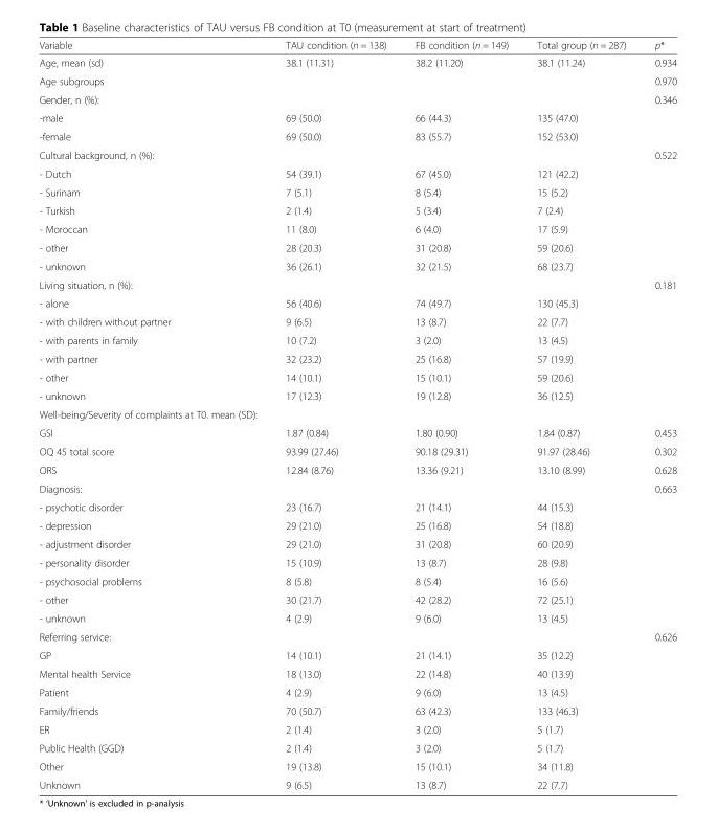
<table><thead><tr><td>Variable</td><td>TAU condition (n = 138)</td><td>FB condition (n = 149)</td><td>Total group (n = 287)</td><td>p*</td></tr></thead><tbody><tr><td>Age, mean (sd)</td><td>38.1 (11.31)</td><td>38.2 (11.20)</td><td>38.1 (11.24)</td><td>0.934</td></tr><tr><td>Age subgroups</td><td></td><td></td><td></td><td>0.970</td></tr><tr><td colspan="4">Gender, n (%):</td><td rowspan="3">0.346</td></tr><tr><td>-male</td><td>69 (50.0)</td><td>66 (44.3)</td><td>135 (47.0)</td></tr><tr><td>-female</td><td>69 (50.0)</td><td>83 (55.7)</td><td>152 (53.0)</td></tr><tr><td colspan="4">Cultural background, n (%):</td><td rowspan="7">0.522</td></tr><tr><td>- Dutch</td><td>54 (39.1)</td><td>67 (45.0)</td><td>121 (42.2)</td></tr><tr><td>- Surinam</td><td>7 (5.1)</td><td>8 (5.4)</td><td>15 (5.2)</td></tr><tr><td>- Turkish</td><td>2 (1.4)</td><td>5 (3.4)</td><td>7 (2.4)</td></tr><tr><td>- Moroccan</td><td>11 (8.0)</td><td>6 (4.0)</td><td>17 (5.9)</td></tr><tr><td>- other</td><td>28 (20.3)</td><td>31 (20.8)</td><td>59 (20.6)</td></tr><tr><td>- unknown</td><td>36 (26.1)</td><td>32 (21.5)</td><td>68 (23.7)</td></tr><tr><td colspan="4">Living situation, n (%):</td><td rowspan="7">0.181</td></tr><tr><td>- alone</td><td>56 (40.6)</td><td>74 (49.7)</td><td>130 (45.3)</td></tr><tr><td>- with children without partner</td><td>9 (6.5)</td><td>13 (8.7)</td><td>22 (7.7)</td></tr><tr><td>- with parents in family</td><td>10 (7.2)</td><td>3 (2.0)</td><td>13 (4.5)</td></tr><tr><td>- with partner</td><td>32 (23.2)</td><td>25 (16.8)</td><td>57 (19.9)</td></tr><tr><td>- other</td><td>14 (10.1)</td><td>15 (10.1)</td><td>59 (20.6)</td></tr><tr><td>- unknown</td><td>17 (12.3)</td><td>19 (12.8)</td><td>36 (12.5)</td></tr><tr><td colspan="5">Well-being/Severity of complaints at T0. mean (SD):</td></tr><tr><td>GSI</td><td>1.87 (0.84)</td><td>1.80 (0.90)</td><td>1.84 (0.87)</td><td>0.453</td></tr><tr><td>OQ 45 total score</td><td>93.99 (27.46)</td><td>90.18 (29.31)</td><td>91.97 (28.46)</td><td>0.302</td></tr><tr><td>ORS</td><td>12.84 (8.76)</td><td>13.36 (9.21)</td><td>13.10 (8.99)</td><td>0.628</td></tr><tr><td colspan="4">Diagnosis:</td><td rowspan="8">0.663</td></tr><tr><td>- psychotic disorder</td><td>23 (16.7)</td><td>21 (14.1)</td><td>44 (15.3)</td></tr><tr><td>- depression</td><td>29 (21.0)</td><td>25 (16.8)</td><td>54 (18.8)</td></tr><tr><td>- adjustment disorder</td><td>29 (21.0)</td><td>31 (20.8)</td><td>60 (20.9)</td></tr><tr><td>- personality disorder</td><td>15 (10.9)</td><td>13 (8.7)</td><td>28 (9.8)</td></tr><tr><td>- psychosocial problems</td><td>8 (5.8)</td><td>8 (5.4)</td><td>16 (5.6)</td></tr><tr><td>- other</td><td>30 (21.7)</td><td>42 (28.2)</td><td>72 (25.1)</td></tr><tr><td>- unknown</td><td>4 (2.9)</td><td>9 (6.0)</td><td>13 (4.5)</td></tr><tr><td colspan="4">Referring service:</td><td rowspan="9">0.626</td></tr><tr><td>GP</td><td>14 (10.1)</td><td>21 (14.1)</td><td>35 (12.2)</td></tr><tr><td>Mental health Service</td><td>18 (13.0)</td><td>22 (14.8)</td><td>40 (13.9)</td></tr><tr><td>Patient</td><td>4 (2.9)</td><td>9 (6.0)</td><td>13 (4.5)</td></tr><tr><td>Family/friends</td><td>70 (50.7)</td><td>63 (42.3)</td><td>133 (46.3)</td></tr><tr><td>ER</td><td>2 (1.4)</td><td>3 (2.0)</td><td>5 (1.7)</td></tr><tr><td>Public Health (GGD)</td><td>2 (1.4)</td><td>3 (2.0)</td><td>5 (1.7)</td></tr><tr><td>Other</td><td>19 (13.8)</td><td>15 (10.1)</td><td>34 (11.8)</td></tr><tr><td>Unknown</td><td>9 (6.5)</td><td>13 (8.7)</td><td>22 (7.7)</td></tr></tbody></table>